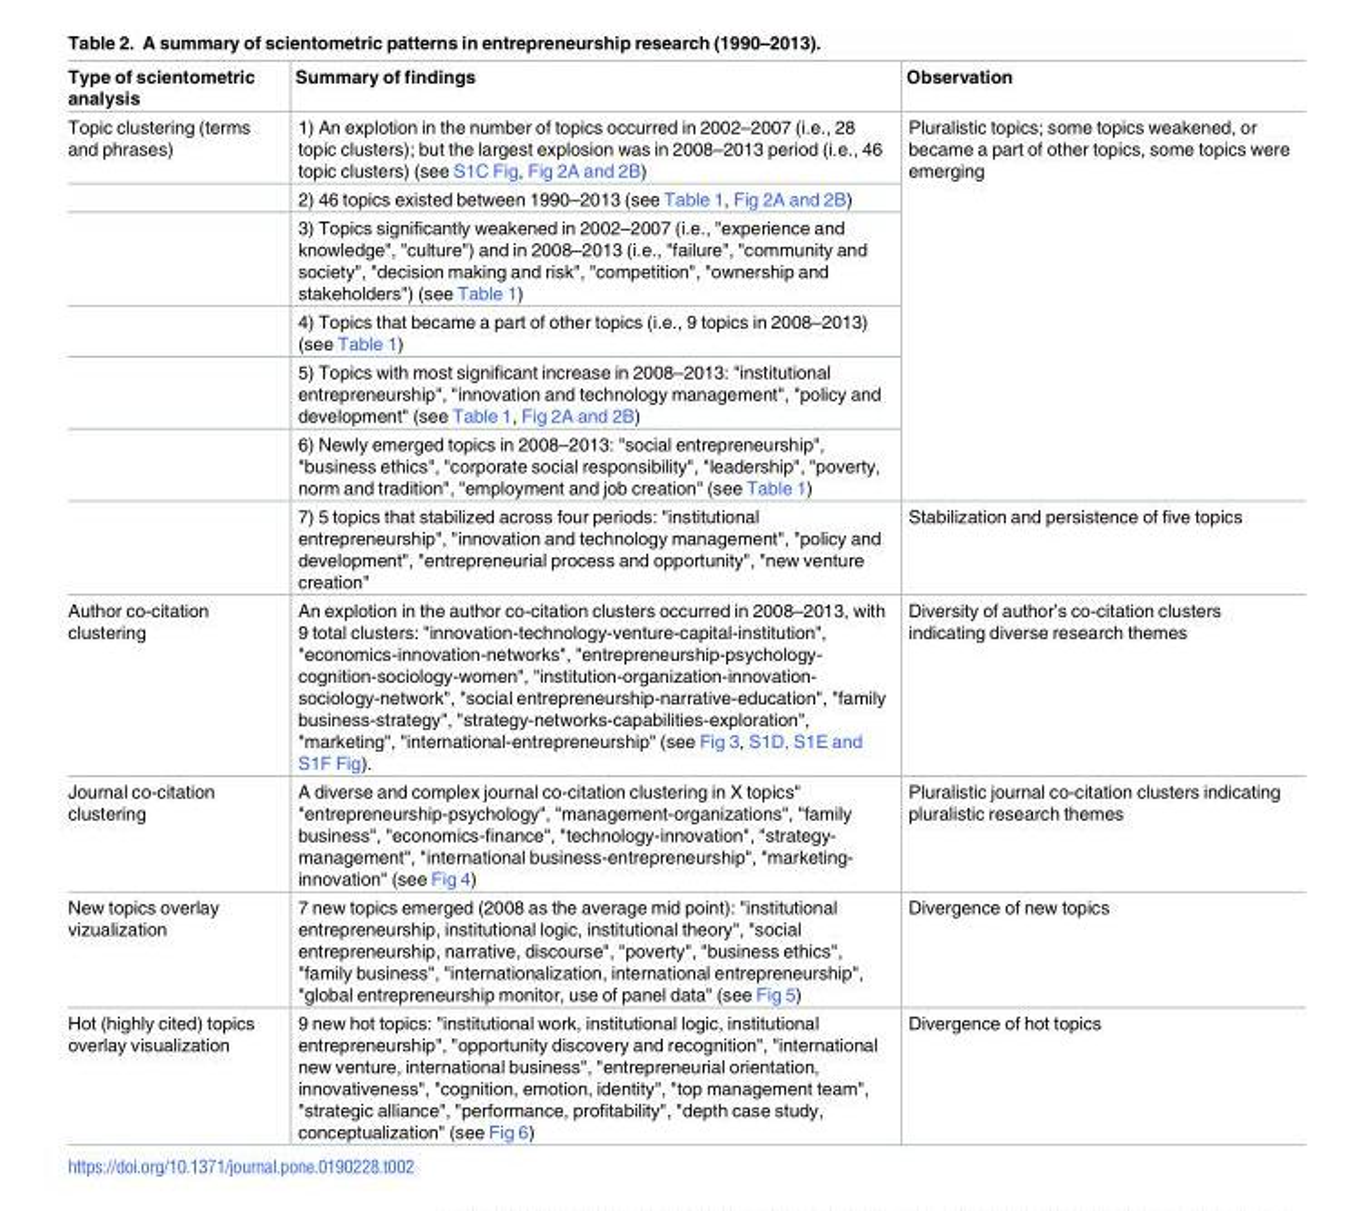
<table><thead><tr><td>Type of scientometric analysis</td><td>Summary of findings</td><td>Observation</td></tr></thead><tbody><tr><td rowspan="7">Topic clustering (terms and phrases)</td><td>1) An explotion in the number of topics occurred in 2002–2007 (i.e., 28 topic clusters); but the largest explosion was in 2008–2013 period (i.e., 46 topic clusters) (see S1C Fig, Fig 2A and 2B)</td><td rowspan="6">Pluralistic topics; some topics weakened, or became a part of other topics, some topics were emerging</td></tr><tr><td>2) 46 topics existed between 1990–2013 (see Table 1, Fig 2A and 2B)</td></tr><tr><td>3) Topics significantly weakened in 2002–2007 (i.e., &quot;experience and knowledge&quot;, &quot;culture&quot;) and in 2008–2013 (i.e., &quot;failure&quot;, &quot;community and society&quot;, &quot;decision making and risk&quot;, &quot;competition&quot;, &quot;ownership and stakeholders&quot;) (see Table 1)</td></tr><tr><td>4) Topics that became a part of other topics (i.e., 9 topics in 2008–2013) (see Table 1)</td></tr><tr><td>5) Topics with most significant increase in 2008–2013: &quot;institutional entrepreneurship&quot;, &quot;innovation and technology management&quot;, &quot;policy and development&quot; (see Table 1, Fig 2A and 2B)</td></tr><tr><td>6) Newly emerged topics in 2008–2013: &quot;social entrepreneurship&quot;, &quot;business ethics&quot;, &quot;corporate social responsibility&quot;, &quot;leadership&quot;, &quot;poverty, norm and tradition&quot;, &quot;employment and job creation&quot; (see Table 1)</td></tr><tr><td>7) 5 topics that stabilized across four periods: &quot;institutional entrepreneurship&quot;, &quot;innovation and technology management&quot;, &quot;policy and development&quot;, &quot;entrepreneurial process and opportunity&quot;, &quot;new venture creation&quot;</td><td>Stabilization and persistence of five topics</td></tr><tr><td>Author co-citation clustering</td><td>An explotion in the author co-citation clusters occurred in 2008–2013, with 9 total clusters: &quot;innovation-technology-venture-capital-institution&quot;, &quot;economics-innovation-networks&quot;, &quot;entrepreneurship-psychology- cognition-sociology-women&quot;, &quot;institution-organization-innovation- sociology-network&quot;, &quot;social entrepreneurship-narrative-education&quot;, &quot;family business-strategy&quot;, &quot;strategy-networks-capabilities-exploration&quot;, &quot;marketing&quot;, &quot;international-entrepreneurship&quot; (see Fig 3, S1D, S1E and S1F Fig).</td><td>Diversity of author’s co-citation clusters indicating diverse research themes</td></tr><tr><td>Journal co-citation clustering</td><td>A diverse and complex journal co-citation clustering in X topics&quot; &quot;entrepreneurship-psychology&quot;, &quot;management-organizations&quot;, &quot;family business&quot;, &quot;economics-finance&quot;, &quot;technology-innovation&quot;, &quot;strategy- management&quot;, &quot;international business-entrepreneurship&quot;, &quot;marketing- innovation&quot; (see Fig 4)</td><td>Pluralistic journal co-citation clusters indicating pluralistic research themes</td></tr><tr><td>New topics overlay vizualization</td><td>7 new topics emerged (2008 as the average mid point): &quot;institutional entrepreneurship, institutional logic, institutional theory&quot;, &quot;social entrepreneurship, narrative, discourse&quot;, &quot;poverty&quot;, &quot;business ethics&quot;, &quot;family business&quot;, &quot;internationalization, international entrepreneurship&quot;, &quot;global entrepreneurship monitor, use of panel data&quot; (see Fig 5)</td><td>Divergence of new topics</td></tr><tr><td>Hot (highly cited) topics overlay visualization</td><td>9 new hot topics: &quot;institutional work, institutional logic, institutional entrepreneurship&quot;, &quot;opportunity discovery and recognition&quot;, &quot;international new venture, international business&quot;, &quot;entrepreneurial orientation, innovativeness&quot;, &quot;cognition, emotion, identity&quot;, &quot;top management team&quot;, &quot;strategic alliance&quot;, &quot;performance, profitability&quot;, &quot;depth case study, conceptualization&quot; (see Fig 6)</td><td>Divergence of hot topics</td></tr></tbody></table>